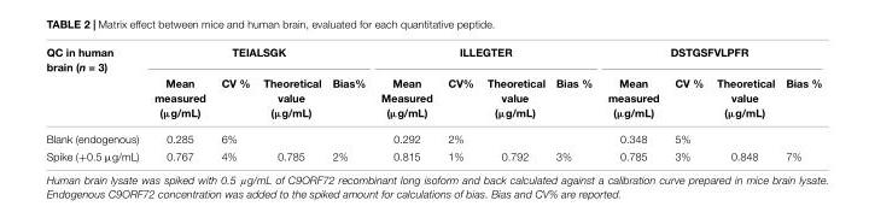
<table><thead><tr><td rowspan="2">QC in human brain (n = 3)</td><td colspan="4">TEIALSGK</td><td colspan="4">ILLEGTER</td><td colspan="4">DSTGSFVLPFR</td></tr><tr><td>Mean measured (µg/mL)</td><td>CV %</td><td>Theoretical value (µg/mL)</td><td>Bias%</td><td>Mean Measured (µg/mL)</td><td>CV%</td><td>Theoretical value (µg/mL)</td><td>Bias %</td><td>Mean measured (µg/mL)</td><td>CV %</td><td>Theoretical value (µg/mL)</td><td>Bias %</td></tr></thead><tbody><tr><td>Blank (endogenous)</td><td>0.285</td><td>6%</td><td></td><td></td><td>0.292</td><td>2%</td><td></td><td></td><td>0.348</td><td>5%</td><td></td><td></td></tr><tr><td>Spike (+0.5 µg/mL)</td><td>0.767</td><td>4%</td><td>0.785</td><td>2%</td><td>0.815</td><td>1%</td><td>0.792</td><td>3%</td><td>0.785</td><td>3%</td><td>0.848</td><td>7%</td></tr></tbody></table>